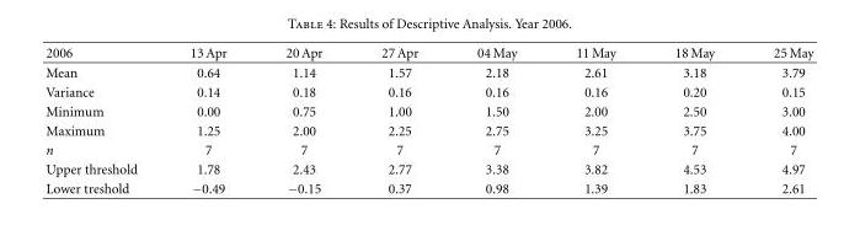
<table><thead><tr><td>2006</td><td>13 Apr</td><td>20 Apr</td><td>27 Apr</td><td>04 May</td><td>11 May</td><td>18 May</td><td>25 May</td></tr></thead><tbody><tr><td>Mean</td><td>0.64</td><td>1.14</td><td>1.57</td><td>2.18</td><td>2.61</td><td>3.18</td><td>3.79</td></tr><tr><td>Variance</td><td>0.14</td><td>0.18</td><td>0.16</td><td>0.16</td><td>0.16</td><td>0.20</td><td>0.15</td></tr><tr><td>Minimum</td><td>0.00</td><td>0.75</td><td>1.00</td><td>1.50</td><td>2.00</td><td>2.50</td><td>3.00</td></tr><tr><td>Maximum</td><td>1.25</td><td>2.00</td><td>2.25</td><td>2.75</td><td>3.25</td><td>3.75</td><td>4.00</td></tr><tr><td>n</td><td>7</td><td>7</td><td>7</td><td>7</td><td>7</td><td>7</td><td>7</td></tr><tr><td>Upper threshold</td><td>1.78</td><td>2.43</td><td>2.77</td><td>3.38</td><td>3.82</td><td>4.53</td><td>4.97</td></tr><tr><td>Lower treshold</td><td>−0.49</td><td>−0.15</td><td>0.37</td><td>0.98</td><td>1.39</td><td>1.83</td><td>2.61</td></tr></tbody></table>